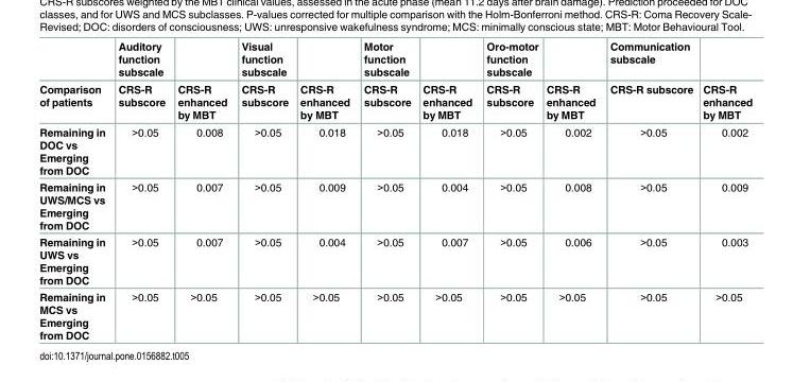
<table><thead><tr><td rowspan="2">Comparison of patients</td><td rowspan="2">Auditory function subscale CRS-R subscore</td><td rowspan="2">CRS-R enhanced by MBT</td><td rowspan="2">Visual function subscale CRS-R subscore</td><td rowspan="2">CRS-R enhanced by MBT</td><td rowspan="2">Motor function subscale CRS-R subscore</td><td rowspan="2">CRS-R enhanced by MBT</td><td rowspan="2">Oro-motor function subscale CRS-R subscore</td><td rowspan="2">CRS-R enhanced by MBT</td><td rowspan="2">Communication subscale CRS-R subscore</td><td rowspan="2">CRS-R enhanced by MBT</td></tr><tr></tr></thead><tbody><tr><td>Remaining in DOC vs Emerging from DOC</td><td>&gt;0.05</td><td>0.008</td><td>&gt;0.05</td><td>0.018</td><td>&gt;0.05</td><td>0.018</td><td>&gt;0.05</td><td>0.002</td><td>&gt;0.05</td><td>0.002</td></tr><tr><td>Remaining in UWS/MCS vs Emerging from DOC</td><td>&gt;0.05</td><td>0.007</td><td>&gt;0.05</td><td>0.009</td><td>&gt;0.05</td><td>0.004</td><td>&gt;0.05</td><td>0.008</td><td>&gt;0.05</td><td>0.009</td></tr><tr><td>Remaining in UWS vs Emerging from DOC</td><td>&gt;0.05</td><td>0.007</td><td>&gt;0.05</td><td>0.004</td><td>&gt;0.05</td><td>0.007</td><td>&gt;0.05</td><td>0.006</td><td>&gt;0.05</td><td>0.003</td></tr><tr><td>Remaining in MCS vs Emerging from DOC</td><td>&gt;0.05</td><td>&gt;0.05</td><td>&gt;0.05</td><td>&gt;0.05</td><td>&gt;0.05</td><td>&gt;0.05</td><td>&gt;0.05</td><td>&gt;0.05</td><td>&gt;0.05</td><td>&gt;0.05</td></tr></tbody></table>